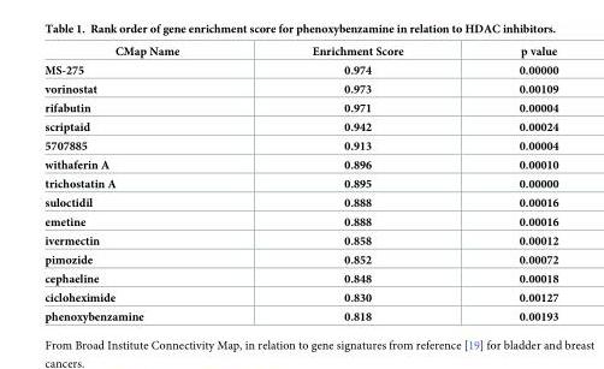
<table><thead><tr><td>CMap Name</td><td>Enrichment Score</td><td>p value</td></tr></thead><tbody><tr><td>MS-275</td><td>0.974</td><td>0.00000</td></tr><tr><td>vorinostat</td><td>0.973</td><td>0.00109</td></tr><tr><td>rifabutin</td><td>0.971</td><td>0.00004</td></tr><tr><td>scriptaid</td><td>0.942</td><td>0.00024</td></tr><tr><td>5707885</td><td>0.913</td><td>0.00004</td></tr><tr><td>withaferin A</td><td>0.896</td><td>0.00010</td></tr><tr><td>trichostatin A</td><td>0.895</td><td>0.00000</td></tr><tr><td>suloctidil</td><td>0.888</td><td>0.00016</td></tr><tr><td>emetine</td><td>0.888</td><td>0.00016</td></tr><tr><td>ivermectin</td><td>0.858</td><td>0.00012</td></tr><tr><td>pimozide</td><td>0.852</td><td>0.00072</td></tr><tr><td>cephaeline</td><td>0.848</td><td>0.00018</td></tr><tr><td>cicloheximide</td><td>0.830</td><td>0.00127</td></tr><tr><td>phenoxybenzamine</td><td>0.818</td><td>0.00193</td></tr></tbody></table>